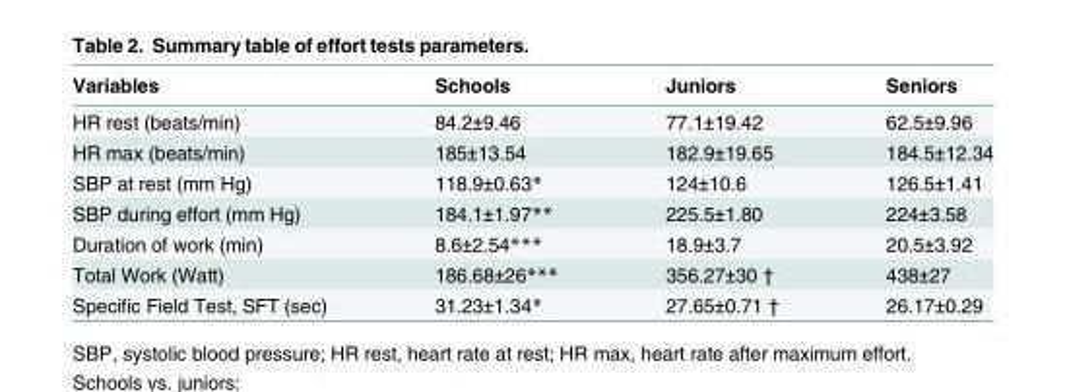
<table><thead><tr><td>Variables</td><td>Schools</td><td>Juniors</td><td>Seniors</td></tr></thead><tbody><tr><td>HR rest (beats/min)</td><td>84.2±9.46</td><td>77.1±19.42</td><td>62.5±9.96</td></tr><tr><td>HR max (beats/min)</td><td>185±13.54</td><td>182.9±19.65</td><td>184.5±12.34</td></tr><tr><td>SBP at rest (mm Hg)</td><td>118.9±0.63*</td><td>124±10.6</td><td>126.5±1.41</td></tr><tr><td>SBP during effort (mm Hg)</td><td>184.1±1.97**</td><td>225.5±1.80</td><td>224±3.58</td></tr><tr><td>Duration of work (min)</td><td>8.6±2.54***</td><td>18.9±3.7</td><td>20.5±3.92</td></tr><tr><td>Total Work (Watt)</td><td>186.68±26***</td><td>356.27±30 †</td><td>438±27</td></tr><tr><td>Specific Field Test, SFT (sec)</td><td>31.23±1.34*</td><td>27.65±0.71 †</td><td>26.17±0.29</td></tr></tbody></table>